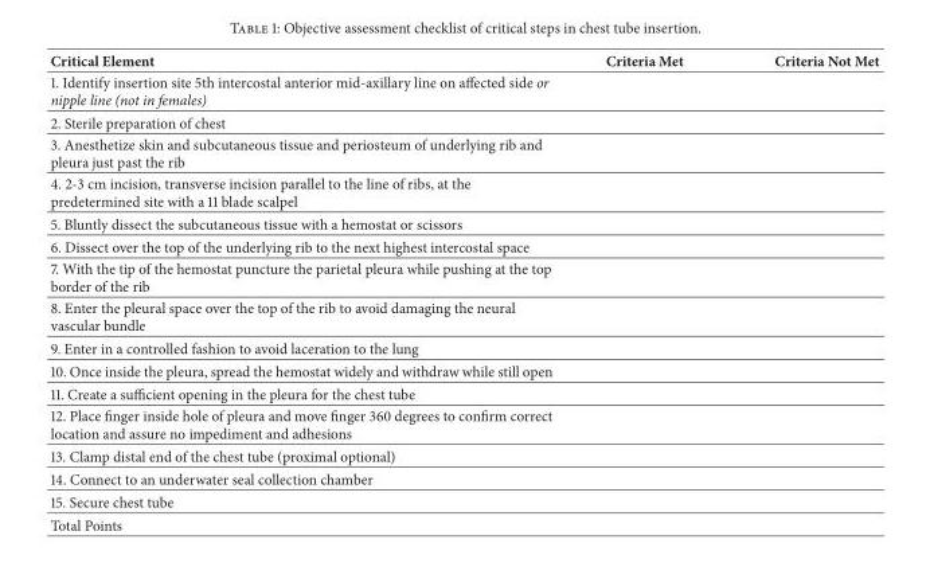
<table><thead><tr><td>Critical Element</td><td>Criteria Met</td><td>Criteria Not Met</td></tr></thead><tbody><tr><td colspan="3">1. Identify insertion site 5th intercostal anterior mid-axillary line on affected side or nipple line (not in females)</td></tr><tr><td colspan="3">2. Sterile preparation of chest</td></tr><tr><td colspan="3">3. Anesthetize skin and subcutaneous tissue and periosteum of underlying rib and pleura just past the rib</td></tr><tr><td colspan="3">4. 2-3 cm incision, transverse incision parallel to the line of ribs, at the predetermined site with a 11 blade scalpel</td></tr><tr><td colspan="3">5. Bluntly dissect the subcutaneous tissue with a hemostat or scissors</td></tr><tr><td colspan="3">6. Dissect over the top of the underlying rib to the next highest intercostal space</td></tr><tr><td colspan="3">7. With the tip of the hemostat puncture the parietal pleura while pushing at the top border of the rib</td></tr><tr><td colspan="3">8. Enter the pleural space over the top of the rib to avoid damaging the neural vascular bundle</td></tr><tr><td colspan="3">9. Enter in a controlled fashion to avoid laceration to the lung</td></tr><tr><td colspan="3">10. Once inside the pleura, spread the hemostat widely and withdraw while still open</td></tr><tr><td colspan="3">11. Create a sufficient opening in the pleura for the chest tube</td></tr><tr><td colspan="3">12. Place finger inside hole of pleura and move finger 360 degrees to confirm correct location and assure no impediment and adhesions</td></tr><tr><td colspan="3">13. Clamp distal end of the chest tube (proximal optional)</td></tr><tr><td colspan="3">14. Connect to an underwater seal collection chamber</td></tr><tr><td colspan="3">15. Secure chest tube</td></tr><tr><td>Total Points</td><td></td><td></td></tr></tbody></table>